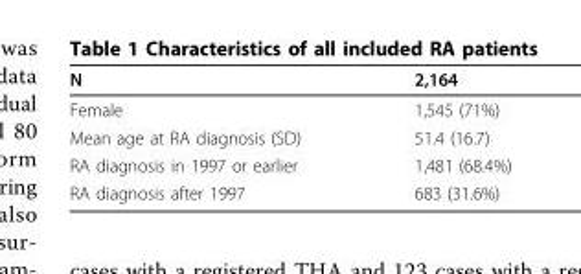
<table><thead><tr><td>N</td><td>2,164</td></tr></thead><tbody><tr><td>Female</td><td>1,545 (71%)</td></tr><tr><td>Mean age at RA diagnosis (SD)</td><td>51.4 (16.7)</td></tr><tr><td>RA diagnosis in 1997 or earlier</td><td>1,481 (68.4%)</td></tr><tr><td>RA diagnosis after 1997</td><td>683 (31.6%)</td></tr></tbody></table>